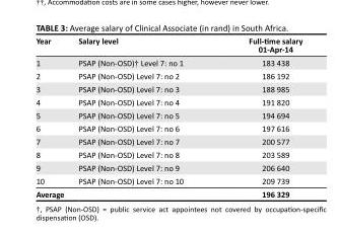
<table><thead><tr><td>Year</td><td>Salary level</td><td>Full-time salary 01-Apr-14</td></tr></thead><tbody><tr><td>1</td><td>PSAP (Non-OSD)† Level 7: no 1</td><td>183 438</td></tr><tr><td>2</td><td>PSAP (Non-OSD) Level 7: no 2</td><td>186 192</td></tr><tr><td>3</td><td>PSAP (Non-OSD) Level 7: no 3</td><td>188 985</td></tr><tr><td>4</td><td>PSAP (Non-OSD) Level 7: no 4</td><td>191 820</td></tr><tr><td>5</td><td>PSAP (Non-OSD) Level 7: no 5</td><td>194 694</td></tr><tr><td>6</td><td>PSAP (Non-OSD) Level 7: no 6</td><td>197 616</td></tr><tr><td>7</td><td>PSAP (Non-OSD) Level 7: no 7</td><td>200 577</td></tr><tr><td>8</td><td>PSAP (Non-OSD) Level 7: no 8</td><td>203 589</td></tr><tr><td>9</td><td>PSAP (Non-OSD) Level 7: no 9</td><td>206 640</td></tr><tr><td>10</td><td>PSAP (Non-OSD) Level 7: no 10</td><td>209 739</td></tr><tr><td>Average</td><td></td><td>196 329</td></tr></tbody></table>